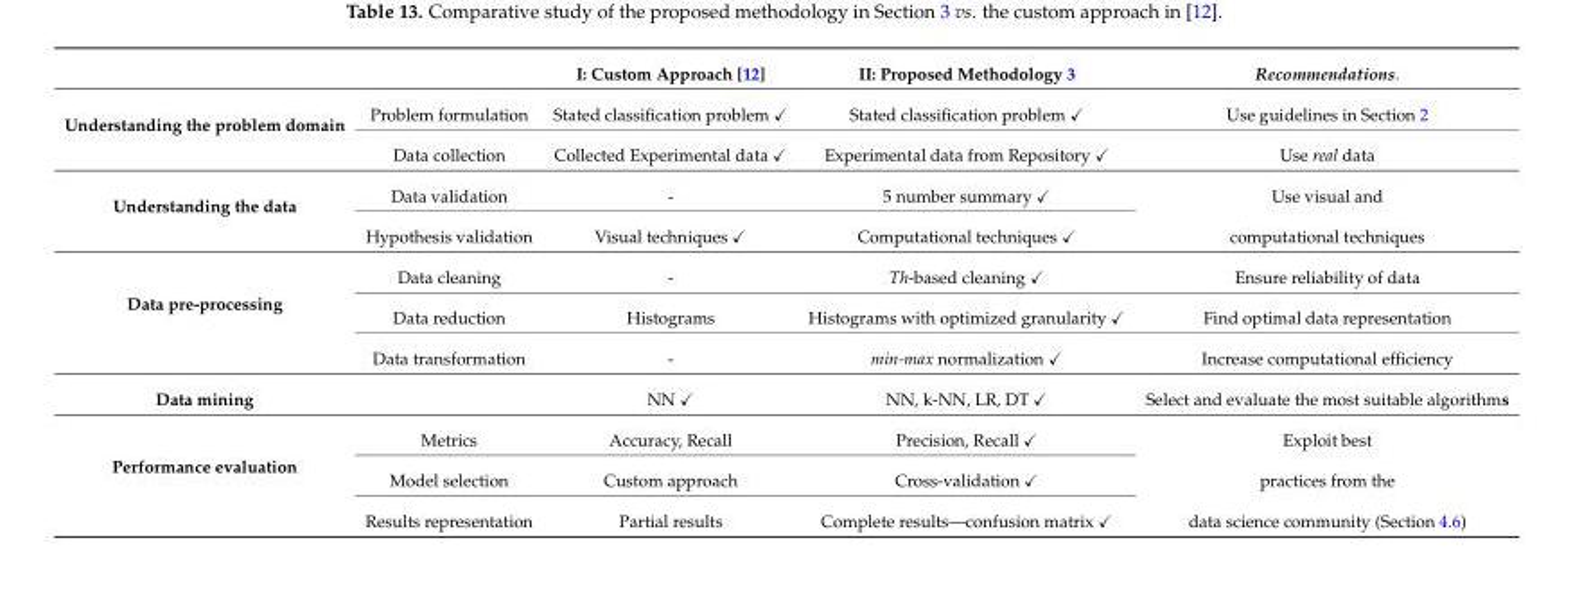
<table><thead><tr><td></td><td></td><td>I: Custom Approach [12]</td><td>II: Proposed Methodology 3</td><td>Recommendations.</td></tr></thead><tbody><tr><td rowspan="2">Understanding the problem domain</td><td>Problem formulation</td><td>Stated classification problem ✓</td><td>Stated classification problem ✓</td><td>Use guidelines in Section 2</td></tr><tr><td>Data collection</td><td>Collected Experimental data ✓</td><td>Experimental data from Repository ✓</td><td>Use real data</td></tr><tr><td rowspan="2">Understanding the data</td><td>Data validation</td><td>-</td><td>5 number summary ✓</td><td>Use visual and</td></tr><tr><td>Hypothesis validation</td><td>Visual techniques ✓</td><td>Computational techniques ✓</td><td>computational techniques</td></tr><tr><td rowspan="3">Data pre-processing</td><td>Data cleaning</td><td>-</td><td>Th-based cleaning ✓</td><td>Ensure reliability of data</td></tr><tr><td>Data reduction</td><td>Histograms</td><td>Histograms with optimized granularity ✓</td><td>Find optimal data representation</td></tr><tr><td>Data transformation</td><td>-</td><td>min-max normalization ✓</td><td>Increase computational efficiency</td></tr><tr><td>Data mining</td><td></td><td>NN ✓</td><td>NN, k-NN, LR, DT ✓</td><td>Select and evaluate the most suitable algorithms</td></tr><tr><td rowspan="3">Performance evaluation</td><td>Metrics</td><td>Accuracy, Recall</td><td>Precision, Recall ✓</td><td>Exploit best</td></tr><tr><td>Model selection</td><td>Custom approach</td><td>Cross-validation ✓</td><td>practices from the</td></tr><tr><td>Results representation</td><td>Partial results</td><td>Complete results—confusion matrix ✓</td><td>data science community (Section 4.6)</td></tr></tbody></table>